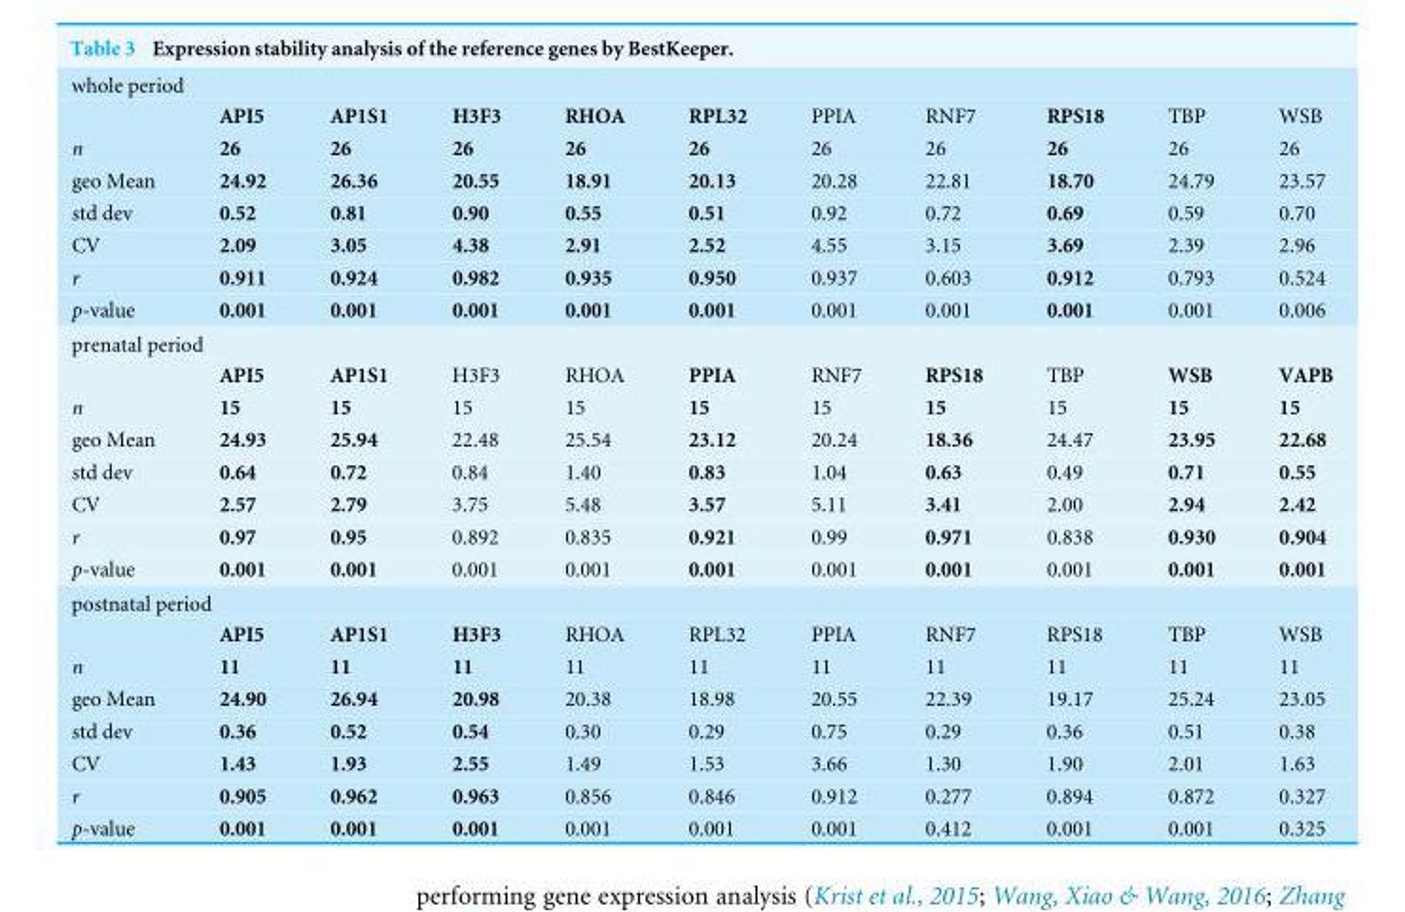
<table><tbody><tr><td colspan="11">whole period</td></tr><tr><td></td><td>API5</td><td>AP1S1</td><td>H3F3</td><td>RHOA</td><td>RPL32</td><td>PPIA</td><td>RNF7</td><td>RPS18</td><td>TBP</td><td>WSB</td></tr><tr><td>n</td><td>26</td><td>26</td><td>26</td><td>26</td><td>26</td><td>26</td><td>26</td><td>26</td><td>26</td><td>26</td></tr><tr><td>geo Mean</td><td>24.92</td><td>26.36</td><td>20.55</td><td>18.91</td><td>20.13</td><td>20.28</td><td>22.81</td><td>18.70</td><td>24.79</td><td>23.57</td></tr><tr><td>std dev</td><td>0.52</td><td>0.81</td><td>0.90</td><td>0.55</td><td>0.51</td><td>0.92</td><td>0.72</td><td>0.69</td><td>0.59</td><td>0.70</td></tr><tr><td>CV</td><td>2.09</td><td>3.05</td><td>4.38</td><td>2.91</td><td>2.52</td><td>4.55</td><td>3.15</td><td>3.69</td><td>2.39</td><td>2.96</td></tr><tr><td>r</td><td>0.911</td><td>0.924</td><td>0.982</td><td>0.935</td><td>0.950</td><td>0.937</td><td>0.603</td><td>0.912</td><td>0.793</td><td>0.524</td></tr><tr><td>p-value</td><td>0.001</td><td>0.001</td><td>0.001</td><td>0.001</td><td>0.001</td><td>0.001</td><td>0.001</td><td>0.001</td><td>0.001</td><td>0.006</td></tr><tr><td colspan="11">prenatal period</td></tr><tr><td></td><td>API5</td><td>AP1S1</td><td>H3F3</td><td>RHOA</td><td>PPIA</td><td>RNF7</td><td>RPS18</td><td>TBP</td><td>WSB</td><td>VAPB</td></tr><tr><td>n</td><td>15</td><td>15</td><td>15</td><td>15</td><td>15</td><td>15</td><td>15</td><td>15</td><td>15</td><td>15</td></tr><tr><td>geo Mean</td><td>24.93</td><td>25.94</td><td>22.48</td><td>25.54</td><td>23.12</td><td>20.24</td><td>18.36</td><td>24.47</td><td>23.95</td><td>22.68</td></tr><tr><td>std dev</td><td>0.64</td><td>0.72</td><td>0.84</td><td>1.40</td><td>0.83</td><td>1.04</td><td>0.63</td><td>0.49</td><td>0.71</td><td>0.55</td></tr><tr><td>CV</td><td>2.57</td><td>2.79</td><td>3.75</td><td>5.48</td><td>3.57</td><td>5.11</td><td>3.41</td><td>2.00</td><td>2.94</td><td>2.42</td></tr><tr><td>r</td><td>0.97</td><td>0.95</td><td>0.892</td><td>0.835</td><td>0.921</td><td>0.99</td><td>0.971</td><td>0.838</td><td>0.930</td><td>0.904</td></tr><tr><td>p-value</td><td>0.001</td><td>0.001</td><td>0.001</td><td>0.001</td><td>0.001</td><td>0.001</td><td>0.001</td><td>0.001</td><td>0.001</td><td>0.001</td></tr><tr><td colspan="11">postnatal period</td></tr><tr><td></td><td>API5</td><td>AP1S1</td><td>H3F3</td><td>RHOA</td><td>RPL32</td><td>PPIA</td><td>RNF7</td><td>RPS18</td><td>TBP</td><td>WSB</td></tr><tr><td>n</td><td>11</td><td>11</td><td>11</td><td>11</td><td>11</td><td>11</td><td>11</td><td>11</td><td>11</td><td>11</td></tr><tr><td>geo Mean</td><td>24.90</td><td>26.94</td><td>20.98</td><td>20.38</td><td>18.98</td><td>20.55</td><td>22.39</td><td>19.17</td><td>25.24</td><td>23.05</td></tr><tr><td>std dev</td><td>0.36</td><td>0.52</td><td>0.54</td><td>0.30</td><td>0.29</td><td>0.75</td><td>0.29</td><td>0.36</td><td>0.51</td><td>0.38</td></tr><tr><td>CV</td><td>1.43</td><td>1.93</td><td>2.55</td><td>1.49</td><td>1.53</td><td>3.66</td><td>1.30</td><td>1.90</td><td>2.01</td><td>1.63</td></tr><tr><td>r</td><td>0.905</td><td>0.962</td><td>0.963</td><td>0.856</td><td>0.846</td><td>0.912</td><td>0.277</td><td>0.894</td><td>0.872</td><td>0.327</td></tr><tr><td>p-value</td><td>0.001</td><td>0.001</td><td>0.001</td><td>0.001</td><td>0.001</td><td>0.001</td><td>0.412</td><td>0.001</td><td>0.001</td><td>0.325</td></tr></tbody></table>